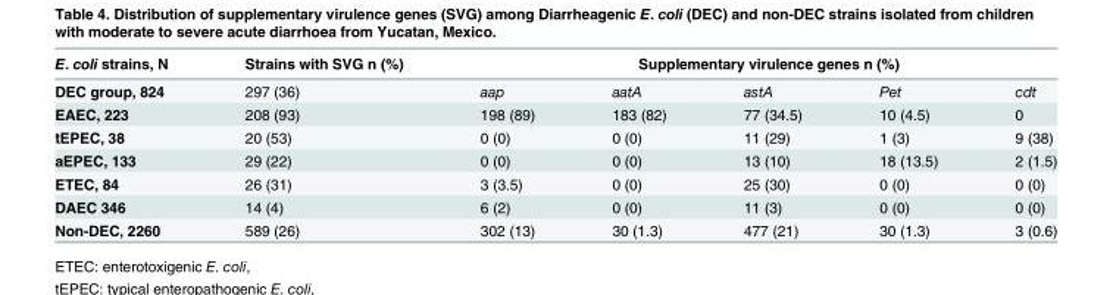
<table><thead><tr><td rowspan="2">E. coli strains, N DEC group, 824</td><td rowspan="2">Strains with SVG n (%) 297 (36)</td><td colspan="5">Supplementary virulence genes n (%)</td></tr><tr><td>aap</td><td>aatA</td><td>astA</td><td>Pet</td><td>cdt</td></tr></thead><tbody><tr><td>EAEC, 223</td><td>208 (93)</td><td>198 (89)</td><td>183 (82)</td><td>77 (34.5)</td><td>10 (4.5)</td><td>0</td></tr><tr><td>tEPEC, 38</td><td>20 (53)</td><td>0 (0)</td><td>0 (0)</td><td>11 (29)</td><td>1 (3)</td><td>9 (38)</td></tr><tr><td>aEPEC, 133</td><td>29 (22)</td><td>0 (0)</td><td>0 (0)</td><td>13 (10)</td><td>18 (13.5)</td><td>2 (1.5)</td></tr><tr><td>ETEC, 84</td><td>26 (31)</td><td>3 (3.5)</td><td>0 (0)</td><td>25 (30)</td><td>0 (0)</td><td>0 (0)</td></tr><tr><td>DAEC 346</td><td>14 (4)</td><td>6 (2)</td><td>0 (0)</td><td>11 (3)</td><td>0 (0)</td><td>0 (0)</td></tr><tr><td>Non-DEC, 2260</td><td>589 (26)</td><td>302 (13)</td><td>30 (1.3)</td><td>477 (21)</td><td>30 (1.3)</td><td>3 (0.6)</td></tr></tbody></table>